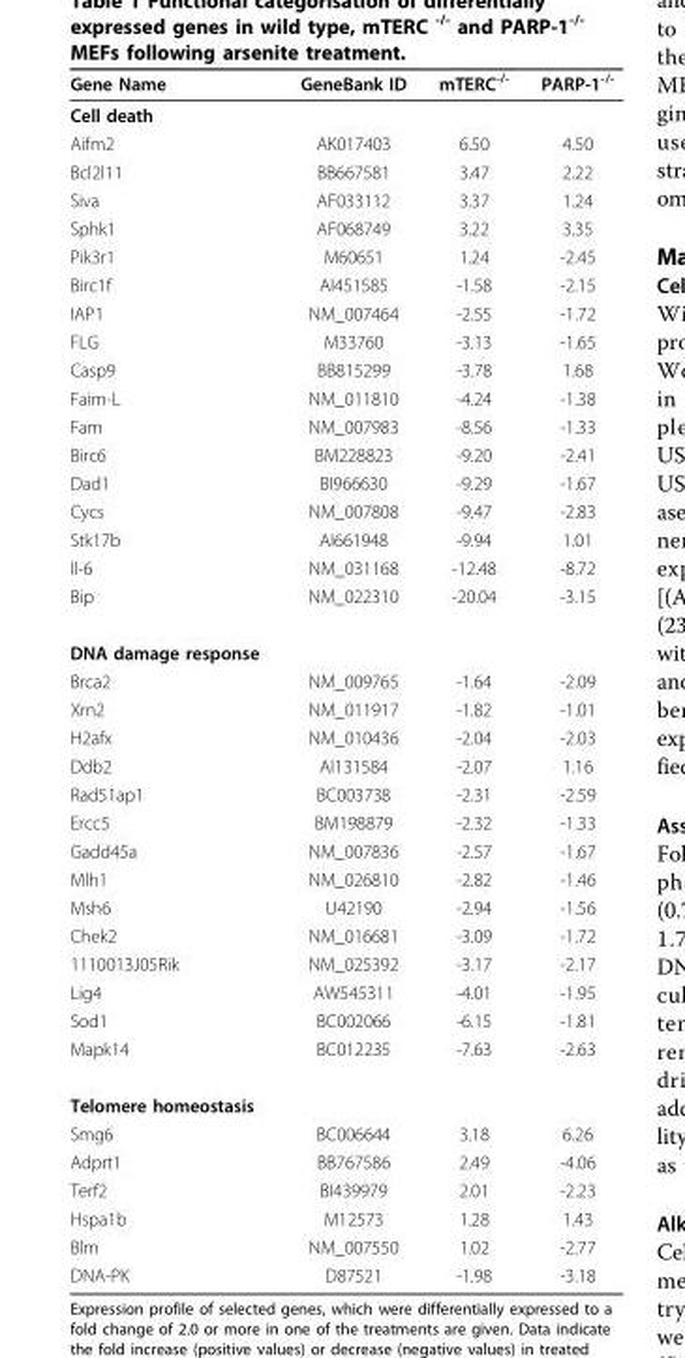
<table><thead><tr><td>Gene Name</td><td>GeneBank ID</td><td>mTERC<sup>-/-</sup></td><td>PARP-1<sup>-/-</sup></td></tr></thead><tbody><tr><td colspan="4">Cell death</td></tr><tr><td>Aifm2</td><td>AK017403</td><td>6.50</td><td>4.50</td></tr><tr><td>Bcl2l11</td><td>BB667581</td><td>3.47</td><td>2.22</td></tr><tr><td>Siva</td><td>AF033112</td><td>3.37</td><td>1.24</td></tr><tr><td>Sphk1</td><td>AF068749</td><td>3.22</td><td>3.35</td></tr><tr><td>Pik3r1</td><td>M60651</td><td>1.24</td><td>-2.45</td></tr><tr><td>Birc1f</td><td>AI451585</td><td>-1.58</td><td>-2.15</td></tr><tr><td>IAP1</td><td>NM_007464</td><td>-2.55</td><td>-1.72</td></tr><tr><td>FLG</td><td>M33760</td><td>-3.13</td><td>-1.65</td></tr><tr><td>Casp9</td><td>BB815299</td><td>-3.78</td><td>1.68</td></tr><tr><td>Faim-L</td><td>NM_011810</td><td>-4.24</td><td>-1.38</td></tr><tr><td>Fam</td><td>NM_007983</td><td>-8.56</td><td>-1.33</td></tr><tr><td>Birc6</td><td>BM228823</td><td>-9.20</td><td>-2.41</td></tr><tr><td>Dad1</td><td>BI966630</td><td>-9.29</td><td>-1.67</td></tr><tr><td>Cycs</td><td>NM_007808</td><td>-9.47</td><td>-2.83</td></tr><tr><td>Stk17b</td><td>AI661948</td><td>-9.94</td><td>1.01</td></tr><tr><td>Il-6</td><td>NM_031168</td><td>-12.48</td><td>-8.72</td></tr><tr><td>Bip</td><td>NM_022310</td><td>-20.04</td><td>-3.15</td></tr><tr><td colspan="4">DNA damage response</td></tr><tr><td>Brca2</td><td>NM_009765</td><td>-1.64</td><td>-2.09</td></tr><tr><td>Xrn2</td><td>NM_011917</td><td>-1.82</td><td>-1.01</td></tr><tr><td>H2afx</td><td>NM_010436</td><td>-2.04</td><td>-2.03</td></tr><tr><td>Ddb2</td><td>AI131584</td><td>-2.07</td><td>1.16</td></tr><tr><td>Rad51ap1</td><td>BC003738</td><td>-2.31</td><td>-2.59</td></tr><tr><td>Ercc5</td><td>BM198879</td><td>-2.32</td><td>-1.33</td></tr><tr><td>Gadd45a</td><td>NM_007836</td><td>-2.57</td><td>-1.67</td></tr><tr><td>Mlh1</td><td>NM_026810</td><td>-2.82</td><td>-1.46</td></tr><tr><td>Msh6</td><td>U42190</td><td>-2.94</td><td>-1.56</td></tr><tr><td>Chek2</td><td>NM_016681</td><td>-3.09</td><td>-1.72</td></tr><tr><td>1110013J05Rik</td><td>NM_025392</td><td>-3.17</td><td>-2.17</td></tr><tr><td>Lig4</td><td>AW545311</td><td>-4.01</td><td>-1.95</td></tr><tr><td>Sod1</td><td>BC002066</td><td>-6.15</td><td>-1.81</td></tr><tr><td>Mapk14</td><td>BC012235</td><td>-7.63</td><td>-2.63</td></tr><tr><td colspan="4">Telomere homeostasis</td></tr><tr><td>Smg6</td><td>BC006644</td><td>3.18</td><td>6.26</td></tr><tr><td>Adprt1</td><td>BB767586</td><td>2.49</td><td>-4.06</td></tr><tr><td>Terf2</td><td>BI439979</td><td>2.01</td><td>-2.23</td></tr><tr><td>Hspa1b</td><td>M12573</td><td>1.28</td><td>1.43</td></tr><tr><td>Blm</td><td>NM_007550</td><td>1.02</td><td>-2.77</td></tr><tr><td>DNA-PK</td><td>D87521</td><td>-1.98</td><td>-3.18</td></tr></tbody></table>